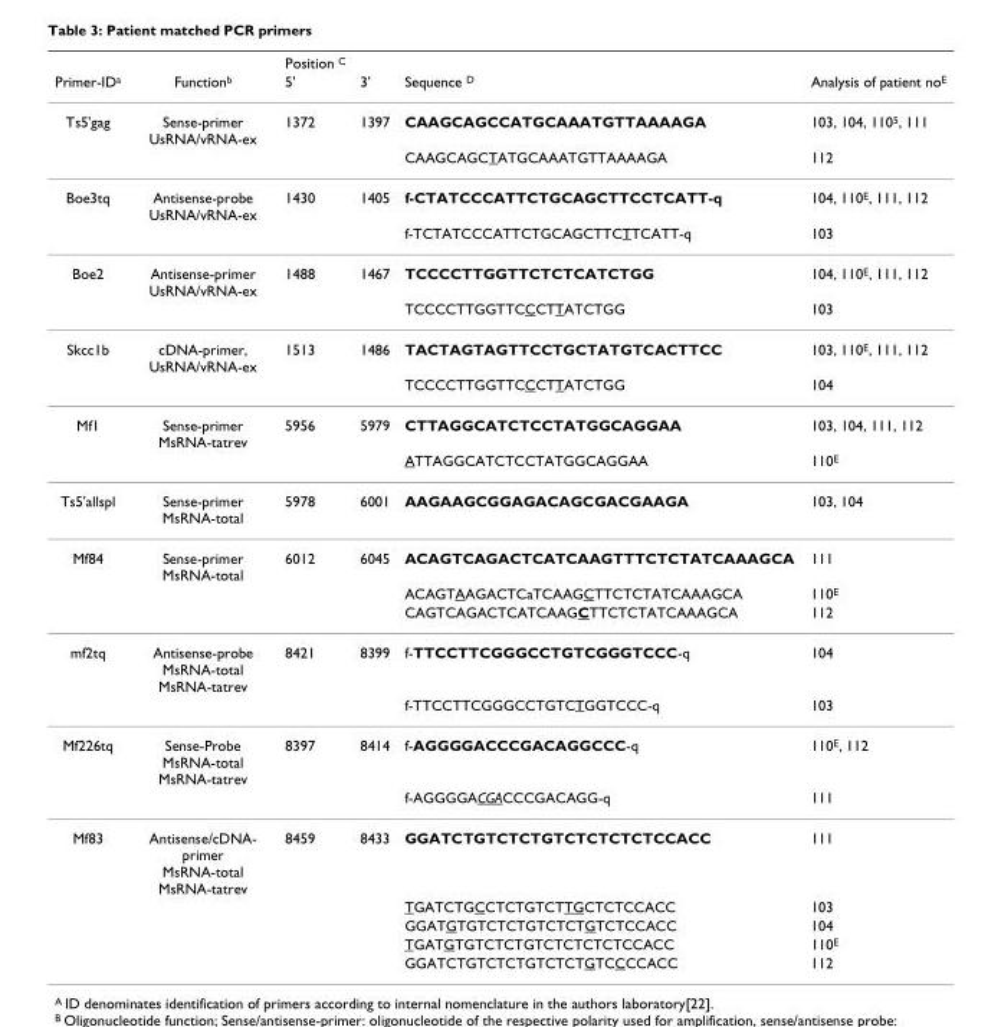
<table><thead><tr><td rowspan="2">Primer-ID<sup>a</sup></td><td rowspan="2">Function<sup>b</sup></td><td rowspan="2">Position <sup>C</sup> 5&#x27;</td><td rowspan="2">3&#x27;</td><td rowspan="2">Sequence <sup>D</sup></td><td rowspan="2">Analysis of patient no<sup>E</sup></td></tr><tr></tr></thead><tbody><tr><td rowspan="2">Ts5&#x27;gag</td><td>Sense-primer UsRNA/vRNA-ex</td><td>1372</td><td>1397</td><td>CAAGCAGCCATGCAAATGTTAAAAGA</td><td>103, 104, 110<sup>5</sup>, 111</td></tr><tr><td></td><td></td><td></td><td>CAAGCAGCTATGCAAATGTTAAAAGA</td><td>112</td></tr><tr><td rowspan="2">Boe3tq</td><td>Antisense-probe UsRNA/vRNA-ex</td><td>1430</td><td>1405</td><td>f-CTATCCCATTCTGCAGCTTCCTCATT-q</td><td>104, 110<sup>E</sup>, 111, 112</td></tr><tr><td></td><td></td><td></td><td>f-TCTATCCCATTCTGCAGCTTCTTCATT-q</td><td>103</td></tr><tr><td rowspan="2">Boe2</td><td>Antisense-primer UsRNA/vRNA-ex</td><td>1488</td><td>1467</td><td>TCCCCTTGGTTCTCTCATCTGG</td><td>104, 110<sup>E</sup>, 111, 112</td></tr><tr><td></td><td></td><td></td><td>TCCCCTTGGTTCCCTTATCTGG</td><td>103</td></tr><tr><td rowspan="2">Skcc1b</td><td>cDNA-primer, UsRNA/vRNA-ex</td><td>1513</td><td>1486</td><td>TACTAGTAGTTCCTGCTATGTCACTTCC</td><td>103, 110<sup>E</sup>, 111, 112</td></tr><tr><td></td><td></td><td></td><td>TCCCCTTGGTTCCCTTATCTGG</td><td>104</td></tr><tr><td rowspan="2">Mf1</td><td>Sense-primer MsRNA-tatrev</td><td>5956</td><td>5979</td><td>CTTAGGCATCTCCTATGGCAGGAA</td><td>103, 104, 111, 112</td></tr><tr><td></td><td></td><td></td><td>ATTAGGCATCTCCTATGGCAGGAA</td><td>110<sup>E</sup></td></tr><tr><td>Ts5&#x27;allspl</td><td>Sense-primer MsRNA-total</td><td>5978</td><td>6001</td><td>AAGAAGCGGAGACAGCGACGAAGA</td><td>103, 104</td></tr><tr><td rowspan="3">Mf84</td><td>Sense-primer MsRNA-total</td><td>6012</td><td>6045</td><td>ACAGTCAGACTCATCAAGTTTCTCTATCAAAGCA</td><td>111</td></tr><tr><td></td><td></td><td></td><td>ACAGTAAGACTCaTCAAGCTTCTCTATCAAAGCA</td><td>110<sup>E</sup></td></tr><tr><td></td><td></td><td></td><td>CAGTCAGACTCATCAAGCTTCTCTATCAAAGCA</td><td>112</td></tr><tr><td rowspan="2">mf2tq</td><td>Antisense-probe MsRNA-total MsRNA-tatrev</td><td>8421</td><td>8399</td><td>f-TTCCTTCGGGCCTGTCGGGTCCC-q</td><td>104</td></tr><tr><td></td><td></td><td></td><td>f-TTCCTTCGGGCCTGTCTGGTCCC-q</td><td>103</td></tr><tr><td rowspan="2">Mf226tq</td><td>Sense-Probe MsRNA-total MsRNA-tatrev</td><td>8397</td><td>8414</td><td>f-AGGGGACCCGACAGGCCC-q</td><td>110<sup>E</sup>, 112</td></tr><tr><td></td><td></td><td></td><td>f-AGGGGACGACCCGACAGG-q</td><td>111</td></tr><tr><td rowspan="5">Mf83</td><td>Antisense/cDNA- primer MsRNA-total MsRNA-tatrev</td><td>8459</td><td>8433</td><td>GGATCTGTCTCTGTCTCTCTCTCCACC</td><td>111</td></tr><tr><td></td><td></td><td></td><td>TGATCTGCCTCTGTCTTGCTCTCCACC</td><td>103</td></tr><tr><td></td><td></td><td></td><td>GGATGTGTCTCTGTCTCTGTCTCCACC</td><td>104</td></tr><tr><td></td><td></td><td></td><td>TGATGTGTCTCTGTCTCTCTCTCCACC</td><td>110<sup>E</sup></td></tr><tr><td></td><td></td><td></td><td>GGATCTGTCTCTGTCTCTGTCCCCACC</td><td>112</td></tr></tbody></table>